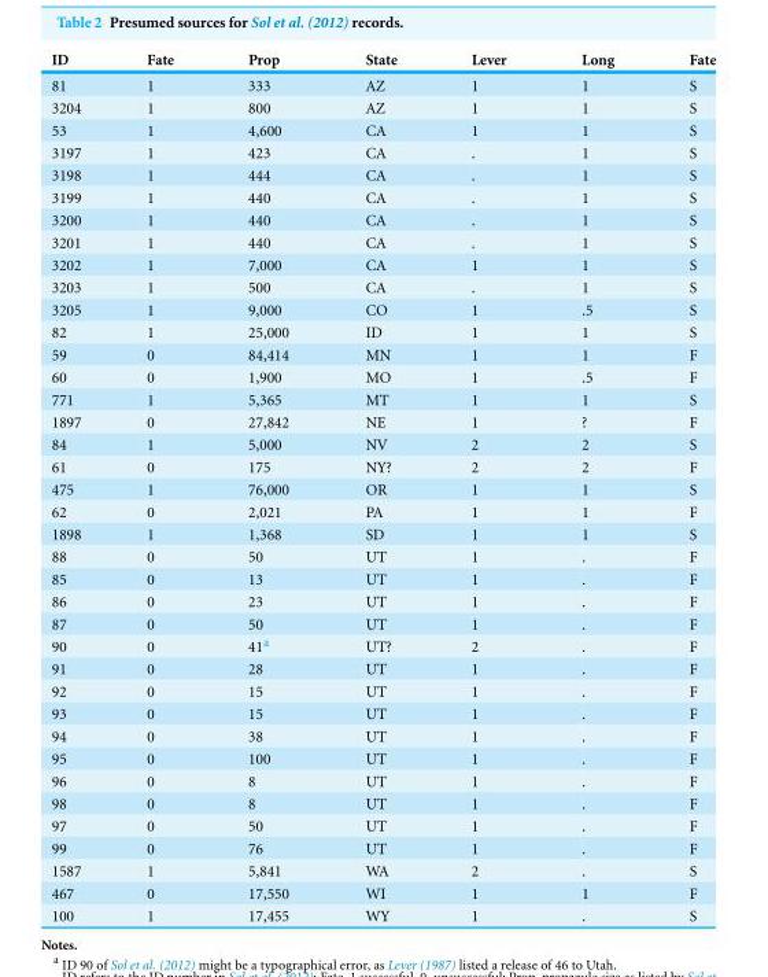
<table><thead><tr><td>ID</td><td>Fate</td><td>Prop</td><td>State</td><td>Lever</td><td>Long</td><td>Fate</td></tr></thead><tbody><tr><td>81</td><td>1</td><td>333</td><td>AZ</td><td>1</td><td>1</td><td>S</td></tr><tr><td>3204</td><td>1</td><td>800</td><td>AZ</td><td>1</td><td>1</td><td>S</td></tr><tr><td>53</td><td>1</td><td>4,600</td><td>CA</td><td>1</td><td>1</td><td>S</td></tr><tr><td>3197</td><td>1</td><td>423</td><td>CA</td><td>.</td><td>1</td><td>S</td></tr><tr><td>3198</td><td>1</td><td>444</td><td>CA</td><td>.</td><td>1</td><td>S</td></tr><tr><td>3199</td><td>1</td><td>440</td><td>CA</td><td>.</td><td>1</td><td>S</td></tr><tr><td>3200</td><td>1</td><td>440</td><td>CA</td><td>.</td><td>1</td><td>S</td></tr><tr><td>3201</td><td>1</td><td>440</td><td>CA</td><td>.</td><td>1</td><td>S</td></tr><tr><td>3202</td><td>1</td><td>7,000</td><td>CA</td><td>1</td><td>1</td><td>S</td></tr><tr><td>3203</td><td>1</td><td>500</td><td>CA</td><td>.</td><td>1</td><td>S</td></tr><tr><td>3205</td><td>1</td><td>9,000</td><td>CO</td><td>1</td><td>.5</td><td>S</td></tr><tr><td>82</td><td>1</td><td>25,000</td><td>ID</td><td>1</td><td>1</td><td>S</td></tr><tr><td>59</td><td>0</td><td>84,414</td><td>MN</td><td>1</td><td>1</td><td>F</td></tr><tr><td>60</td><td>0</td><td>1,900</td><td>MO</td><td>1</td><td>.5</td><td>F</td></tr><tr><td>771</td><td>1</td><td>5,365</td><td>MT</td><td>1</td><td>1</td><td>S</td></tr><tr><td>1897</td><td>0</td><td>27,842</td><td>NE</td><td>1</td><td>?</td><td>F</td></tr><tr><td>84</td><td>1</td><td>5,000</td><td>NV</td><td>2</td><td>2</td><td>S</td></tr><tr><td>61</td><td>0</td><td>175</td><td>NY?</td><td>2</td><td>2</td><td>F</td></tr><tr><td>475</td><td>1</td><td>76,000</td><td>OR</td><td>1</td><td>1</td><td>S</td></tr><tr><td>62</td><td>0</td><td>2,021</td><td>PA</td><td>1</td><td>1</td><td>F</td></tr><tr><td>1898</td><td>1</td><td>1,368</td><td>SD</td><td>1</td><td>1</td><td>S</td></tr><tr><td>88</td><td>0</td><td>50</td><td>UT</td><td>1</td><td>.</td><td>F</td></tr><tr><td>85</td><td>0</td><td>13</td><td>UT</td><td>1</td><td>.</td><td>F</td></tr><tr><td>86</td><td>0</td><td>23</td><td>UT</td><td>1</td><td>.</td><td>F</td></tr><tr><td>87</td><td>0</td><td>50</td><td>UT</td><td>1</td><td>.</td><td>F</td></tr><tr><td>90</td><td>0</td><td>41<sup>a</sup></td><td>UT?</td><td>2</td><td>.</td><td>F</td></tr><tr><td>91</td><td>0</td><td>28</td><td>UT</td><td>1</td><td>.</td><td>F</td></tr><tr><td>92</td><td>0</td><td>15</td><td>UT</td><td>1</td><td>.</td><td>F</td></tr><tr><td>93</td><td>0</td><td>15</td><td>UT</td><td>1</td><td>.</td><td>F</td></tr><tr><td>94</td><td>0</td><td>38</td><td>UT</td><td>1</td><td>.</td><td>F</td></tr><tr><td>95</td><td>0</td><td>100</td><td>UT</td><td>1</td><td>.</td><td>F</td></tr><tr><td>96</td><td>0</td><td>8</td><td>UT</td><td>1</td><td>.</td><td>F</td></tr><tr><td>98</td><td>0</td><td>8</td><td>UT</td><td>1</td><td>.</td><td>F</td></tr><tr><td>97</td><td>0</td><td>50</td><td>UT</td><td>1</td><td>.</td><td>F</td></tr><tr><td>99</td><td>0</td><td>76</td><td>UT</td><td>1</td><td>.</td><td>F</td></tr><tr><td>1587</td><td>1</td><td>5,841</td><td>WA</td><td>2</td><td>.</td><td>S</td></tr><tr><td>467</td><td>0</td><td>17,550</td><td>WI</td><td>1</td><td>1</td><td>F</td></tr><tr><td>100</td><td>1</td><td>17,455</td><td>WY</td><td>1</td><td>.</td><td>S</td></tr></tbody></table>